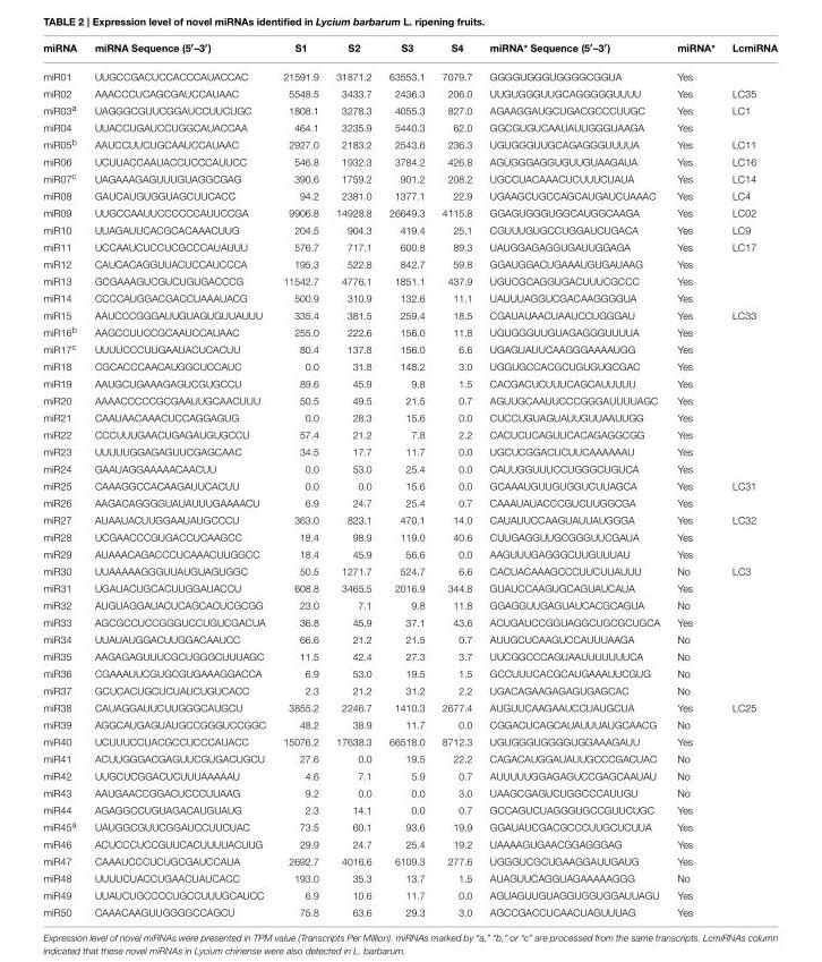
<table><thead><tr><td>miRNA</td><td>miRNA Sequence (5′–3′)</td><td>S1</td><td>S2</td><td>S3</td><td>S4</td><td>miRNA* Sequence (5′–3′)</td><td>miRNA*</td><td>LcmiRNA</td></tr></thead><tbody><tr><td>miR01</td><td>UUGCCGACUCCACCCAUACCAC</td><td>21591.9</td><td>31871.2</td><td>63553.1</td><td>7079.7</td><td>GGGGUGGGUGGGGCGGUA</td><td>Yes</td><td></td></tr><tr><td>miR02</td><td>AAACCCUCAGCGAUCCAUAAC</td><td>5548.5</td><td>3433.7</td><td>2436.3</td><td>206.0</td><td>UUGUGGGUUGCAGGGGGUUUU</td><td>Yes</td><td>LC35</td></tr><tr><td>miR03<sup>a</sup></td><td>UAGGGCGUUCGGAUCCUUCUGC</td><td>1808.1</td><td>3278.3</td><td>4055.3</td><td>827.0</td><td>AGAAGGAUGCUGACGCCCUUGC</td><td>Yes</td><td>LC1</td></tr><tr><td>miR04</td><td>UUACCUGAUCCUGGCAUACCAA</td><td>464.1</td><td>3235.9</td><td>5440.3</td><td>62.0</td><td>GGCGUGUCAAUAUUGGGUAAGA</td><td>Yes</td><td></td></tr><tr><td>miR05<sup>b</sup></td><td>AAUCCUUCUGCAAUCCAUAAC</td><td>2927.0</td><td>2183.2</td><td>2543.6</td><td>236.3</td><td>UGUGGGUUGCAGAGGGUUUUA</td><td>Yes</td><td>LC11</td></tr><tr><td>miR06</td><td>UCUUACCAAUACCUCCCAUUCC</td><td>546.8</td><td>1932.3</td><td>3784.2</td><td>426.8</td><td>AGUGGGAGGUGUUGUAAGAUA</td><td>Yes</td><td>LC16</td></tr><tr><td>miR07<sup>c</sup></td><td>UAGAAAGAGUUUGUAGGCGAG</td><td>390.6</td><td>1759.2</td><td>901.2</td><td>208.2</td><td>UGCCUACAAACUCUUUCUAUA</td><td>Yes</td><td>LC14</td></tr><tr><td>miR08</td><td>GAUCAUGUGGUAGCUUCACC</td><td>94.2</td><td>2381.0</td><td>1377.1</td><td>22.9</td><td>UGAAGCUGCCAGCAUGAUCUAAAC</td><td>Yes</td><td>LC4</td></tr><tr><td>miR09</td><td>UUGCCAAUUCCCCCCAUUCCGA</td><td>9906.8</td><td>14928.8</td><td>26649.3</td><td>4115.8</td><td>GGAGUGGGUGGCAUGGCAAGA</td><td>Yes</td><td>LC02</td></tr><tr><td>miR10</td><td>UUAGAUUCACGCACAAACUUG</td><td>204.5</td><td>904.3</td><td>419.4</td><td>25.1</td><td>CGUUUGUGCCUGGAUCUGACA</td><td>Yes</td><td>LC9</td></tr><tr><td>miR11</td><td>UCCAAUCUCCUCGCCCAUAUUU</td><td>576.7</td><td>717.1</td><td>600.8</td><td>89.3</td><td>UAUGGAGAGGUGAUUGGAGA</td><td>Yes</td><td>LC17</td></tr><tr><td>miR12</td><td>CAUCACAGGUUACUCCAUCCCA</td><td>195.3</td><td>522.8</td><td>842.7</td><td>59.8</td><td>GGAUGGACUGAAAUGUGAUAAG</td><td>Yes</td><td></td></tr><tr><td>miR13</td><td>GCGAAAGUCGUCUGUGACCCG</td><td>11542.7</td><td>4776.1</td><td>1851.1</td><td>437.9</td><td>UGUCGCAGGUGACUUUCGCCC</td><td>Yes</td><td></td></tr><tr><td>miR14</td><td>CCCCAUGGACGACCUAAAUACG</td><td>500.9</td><td>310.9</td><td>132.6</td><td>11.1</td><td>UAUUUAGGUCGACAAGGGGUA</td><td>Yes</td><td></td></tr><tr><td>miR15</td><td>AAUCCCGGGAUUGUAGUGUUAUUU</td><td>335.4</td><td>381.5</td><td>259.4</td><td>18.5</td><td>CGAUAUAACUAAUCCUGGGAU</td><td>Yes</td><td>LC33</td></tr><tr><td>miR16<sup>b</sup></td><td>AAGCCUUCCGCAAUCCAUAAC</td><td>255.0</td><td>222.6</td><td>156.0</td><td>11.8</td><td>UGUGGGUUGUAGAGGGUUUUA</td><td>Yes</td><td></td></tr><tr><td>miR17<sup>c</sup></td><td>UUUUCCCUUGAAUACUCACUU</td><td>80.4</td><td>137.8</td><td>156.0</td><td>6.6</td><td>UGAGUAUUCAAGGGAAAAUGG</td><td>Yes</td><td></td></tr><tr><td>miR18</td><td>CGCACCCAACAUGGCUCCAUC</td><td>0.0</td><td>31.8</td><td>148.2</td><td>3.0</td><td>UGGUGCCACGCUGUGUGCGAC</td><td>Yes</td><td></td></tr><tr><td>miR19</td><td>AAUGCUGAAAGAGUCGUGCCU</td><td>89.6</td><td>45.9</td><td>9.8</td><td>1.5</td><td>CACGACUCUUUCAGCAUUUUU</td><td>Yes</td><td></td></tr><tr><td>miR20</td><td>AAAACCCCCGCGAAUUGCAACUUU</td><td>50.5</td><td>49.5</td><td>21.5</td><td>0.7</td><td>AGUUGCAAUUCCCGGGAUUUUAGC</td><td>Yes</td><td></td></tr><tr><td>miR21</td><td>CAAUAACAAACUCCAGGAGUG</td><td>0.0</td><td>28.3</td><td>15.6</td><td>0.0</td><td>CUCCUGUAGUAUUGUUAAUUGG</td><td>Yes</td><td></td></tr><tr><td>miR22</td><td>CCCUUUGAACUGAGAUGUGCCU</td><td>57.4</td><td>21.2</td><td>7.8</td><td>2.2</td><td>CACUCUCAGUUCACAGAGGCGG</td><td>Yes</td><td></td></tr><tr><td>miR23</td><td>UUUUUGGAGAGUUCGAGCAAC</td><td>34.5</td><td>17.7</td><td>11.7</td><td>0.0</td><td>UGCUCGGACUCUUCAAAAAAU</td><td>Yes</td><td></td></tr><tr><td>miR24</td><td>GAAUAGGAAAAACAACUU</td><td>0.0</td><td>53.0</td><td>25.4</td><td>0.0</td><td>CAUUGGUUUCCUGGGCUGUCA</td><td>Yes</td><td></td></tr><tr><td>miR25</td><td>CAAAGGCCACAAGAUUCACUU</td><td>0.0</td><td>0.0</td><td>15.6</td><td>0.0</td><td>GCAAAUGUUGUGGUCUUAGCA</td><td>Yes</td><td>LC31</td></tr><tr><td>miR26</td><td>AAGACAGGGGUAUAUUUGAAAACU</td><td>6.9</td><td>24.7</td><td>25.4</td><td>0.7</td><td>CAAAUAUACCCGUCUUGGCGA</td><td>Yes</td><td></td></tr><tr><td>miR27</td><td>AUAAUACUUGGAAUAUGCCCU</td><td>363.0</td><td>823.1</td><td>470.1</td><td>14.0</td><td>CAUAUUCCAAGUAUUAUGGGA</td><td>Yes</td><td>LC32</td></tr><tr><td>miR28</td><td>UCGAACCCGUGACCUCAAGCC</td><td>18.4</td><td>98.9</td><td>119.0</td><td>40.6</td><td>CUUGAGGUUGCGGGUUCGAUA</td><td>Yes</td><td></td></tr><tr><td>miR29</td><td>AUAAACAGACCCUCAAACUUGGCC</td><td>18.4</td><td>45.9</td><td>56.6</td><td>0.0</td><td>AAGUUUGAGGGCUUGUUUAU</td><td>Yes</td><td></td></tr><tr><td>miR30</td><td>UUAAAAAGGGUUAUGUAGUGGC</td><td>50.5</td><td>1271.7</td><td>524.7</td><td>6.6</td><td>CACUACAAAGCCCUUCUUAUUU</td><td>No</td><td>LC3</td></tr><tr><td>miR31</td><td>UGAUACUGCACUUGGAUACCU</td><td>608.8</td><td>3465.5</td><td>2016.9</td><td>344.8</td><td>GUAUCCAAGUGCAGUAUCAUA</td><td>Yes</td><td></td></tr><tr><td>miR32</td><td>AUGUAGGAUACUCAGCACUCGCGG</td><td>23.0</td><td>7.1</td><td>9.8</td><td>11.8</td><td>GGAGGUUGAGUAUCACGCAGUA</td><td>No</td><td></td></tr><tr><td>miR33</td><td>AGCGCCUCCGGGUCCUGUCGACUA</td><td>36.8</td><td>45.9</td><td>37.1</td><td>43.6</td><td>ACUGAUCCGGUAGGCUGCGCUGCA</td><td>Yes</td><td></td></tr><tr><td>miR34</td><td>UUAUAUGGACUUGGACAAUCC</td><td>66.6</td><td>21.2</td><td>21.5</td><td>0.7</td><td>AUUGCUCAAGUCCAUUUAAGA</td><td>No</td><td></td></tr><tr><td>miR35</td><td>AAGAGAGUUUCGCUGGGCUUUAGC</td><td>11.5</td><td>42.4</td><td>27.3</td><td>3.7</td><td>UUCGGCCCAGUAAUUUUUUUCA</td><td>No</td><td></td></tr><tr><td>miR36</td><td>CGAAAUUCGUGCGUGAAAGGACCA</td><td>6.9</td><td>53.0</td><td>19.5</td><td>1.5</td><td>GCCUUUCACGCAUGAAAUUCGUG</td><td>No</td><td></td></tr><tr><td>miR37</td><td>GCUCACUGCUCUAUCUGUCACC</td><td>2.3</td><td>21.2</td><td>31.2</td><td>2.2</td><td>UGACAGAAGAGAGUGAGCAC</td><td>No</td><td></td></tr><tr><td>miR38</td><td>CAUAGGAUUCUUGGGCAUGCU</td><td>3855.2</td><td>2246.7</td><td>1410.3</td><td>2677.4</td><td>AUGUUCAAGAAUCCUAUGCUA</td><td>Yes</td><td>LC25</td></tr><tr><td>miR39</td><td>AGGCAUGAGUAUGCCGGGUCCGGC</td><td>48.2</td><td>38.9</td><td>11.7</td><td>0.0</td><td>CGGACUCAGCAUAUUUAUGCAACG</td><td>No</td><td></td></tr><tr><td>miR40</td><td>UCUUUCCUACGCCUCCCAUACC</td><td>15076.2</td><td>17638.3</td><td>66518.0</td><td>8712.3</td><td>UGUGGGUGGGGUGGAAAGAUU</td><td>Yes</td><td></td></tr><tr><td>miR41</td><td>ACUUGGGACGAGUUCGUGACUGCU</td><td>27.6</td><td>0.0</td><td>19.5</td><td>22.2</td><td>CAGACAUGGAUAUUGCCCGACUAC</td><td>No</td><td></td></tr><tr><td>miR42</td><td>UUGCUCGGACUCUUUAAAAAU</td><td>4.6</td><td>7.1</td><td>5.9</td><td>0.7</td><td>AUUUUUGGAGAGUCCGAGCAAUAU</td><td>No</td><td></td></tr><tr><td>miR43</td><td>AAUGAACCGGACUCCCUUAAG</td><td>9.2</td><td>0.0</td><td>0.0</td><td>3.0</td><td>UAAGCGAGUCUGGCCCAUUGU</td><td>No</td><td></td></tr><tr><td>miR44</td><td>AGAGGCCUGUAGACAUGUAUG</td><td>2.3</td><td>14.1</td><td>0.0</td><td>0.7</td><td>GCCAGUCUAGGGUGCCGUUCUGC</td><td>Yes</td><td></td></tr><tr><td>miR45<sup>a</sup></td><td>UAUGGCGUUCGGAUCCUUCUAC</td><td>73.5</td><td>60.1</td><td>93.6</td><td>19.9</td><td>GGAUAUCGACGCCCUUGCUCUUA</td><td>Yes</td><td></td></tr><tr><td>miR46</td><td>ACUCCCUCCGUUCACUUUUACUUG</td><td>29.9</td><td>24.7</td><td>25.4</td><td>19.2</td><td>UAAAAGUGAACGGAGGGAG</td><td>Yes</td><td></td></tr><tr><td>miR47</td><td>CAAAUCCCUCUGCGAUCCAUA</td><td>2692.7</td><td>4016.6</td><td>6109.3</td><td>277.6</td><td>UGGGUCGCUGAAGGAUUGAUG</td><td>Yes</td><td></td></tr><tr><td>miR48</td><td>UUUUCUACCUGAACUAUCACC</td><td>193.0</td><td>35.3</td><td>13.7</td><td>1.5</td><td>AUAGUUCAGGUAGAAAAAGGG</td><td>No</td><td></td></tr><tr><td>miR49</td><td>UUAUCUGCCCCUGCCUUUGCAUCC</td><td>6.9</td><td>10.6</td><td>11.7</td><td>0.0</td><td>AGUAGUUGUAGGUGGUGGAUUAGU</td><td>Yes</td><td></td></tr><tr><td>miR50</td><td>CAAACAAGUUGGGGCCAGCU</td><td>75.8</td><td>63.6</td><td>29.3</td><td>3.0</td><td>AGCCGACCUCAACUAGUUUAG</td><td>Yes</td><td></td></tr></tbody></table>